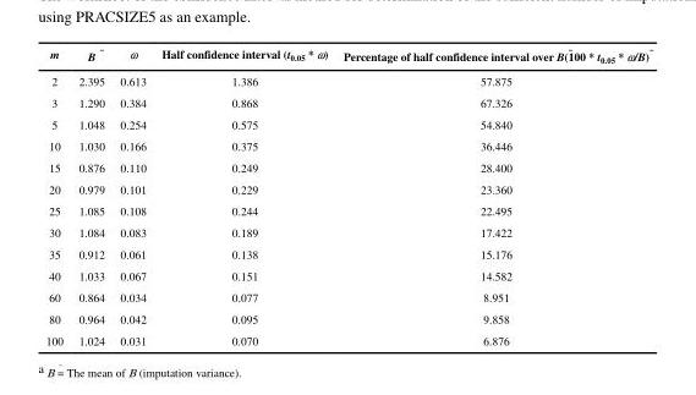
<table><thead><tr><td>m</td><td>B̄</td><td>ω</td><td>Half confidence interval (t<sub>0.05</sub> * ω)</td><td>Percentage of half confidence interval over B̄(100 * t<sub>0.05</sub> * ω/B̄)</td></tr></thead><tbody><tr><td>2</td><td>2.395</td><td>0.613</td><td>1.386</td><td>57.875</td></tr><tr><td>3</td><td>1.290</td><td>0.384</td><td>0.868</td><td>67.326</td></tr><tr><td>5</td><td>1.048</td><td>0.254</td><td>0.575</td><td>54.840</td></tr><tr><td>10</td><td>1.030</td><td>0.166</td><td>0.375</td><td>36.446</td></tr><tr><td>15</td><td>0.876</td><td>0.110</td><td>0.249</td><td>28.400</td></tr><tr><td>20</td><td>0.979</td><td>0.101</td><td>0.229</td><td>23.360</td></tr><tr><td>25</td><td>1.085</td><td>0.108</td><td>0.244</td><td>22.495</td></tr><tr><td>30</td><td>1.084</td><td>0.083</td><td>0.189</td><td>17.422</td></tr><tr><td>35</td><td>0.912</td><td>0.061</td><td>0.138</td><td>15.176</td></tr><tr><td>40</td><td>1.033</td><td>0.067</td><td>0.151</td><td>14.582</td></tr><tr><td>60</td><td>0.864</td><td>0.034</td><td>0.077</td><td>8.951</td></tr><tr><td>80</td><td>0.964</td><td>0.042</td><td>0.095</td><td>9.858</td></tr><tr><td>100</td><td>1.024</td><td>0.031</td><td>0.070</td><td>6.876</td></tr></tbody></table>